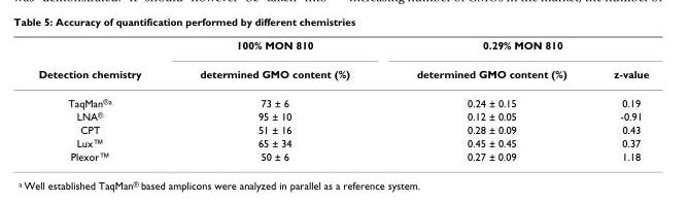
<table><thead><tr><td rowspan="2">Detection chemistry</td><td rowspan="2">100% MON 810 determined GMO content (%)</td><td colspan="2">0.29% MON 810</td></tr><tr><td>determined GMO content (%)</td><td>z-value</td></tr></thead><tbody><tr><td>TaqMan<sup>®a</sup></td><td>73 ± 6</td><td>0.24 ± 0.15</td><td>0.19</td></tr><tr><td>LNA<sup>®</sup></td><td>95 ± 10</td><td>0.12 ± 0.05</td><td>-0.91</td></tr><tr><td>CPT</td><td>51 ± 16</td><td>0.28 ± 0.09</td><td>0.43</td></tr><tr><td>Lux™</td><td>65 ± 34</td><td>0.45 ± 0.45</td><td>0.37</td></tr><tr><td>Plexor™</td><td>50 ± 6</td><td>0.27 ± 0.09</td><td>1.18</td></tr></tbody></table>